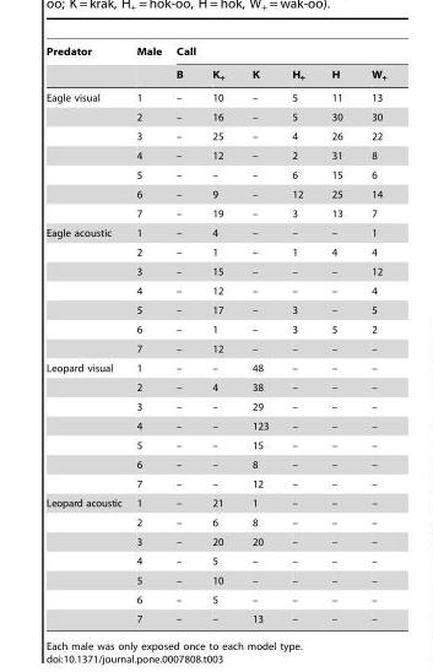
<table><thead><tr><td rowspan="2">Predator</td><td rowspan="2">Male</td><td colspan="6">Call</td></tr><tr><td>B</td><td>K<sub>+</sub></td><td>K</td><td>H<sub>+</sub></td><td>H</td><td>W<sub>+</sub></td></tr></thead><tbody><tr><td rowspan="7">Eagle visual</td><td>1</td><td>–</td><td>10</td><td>–</td><td>5</td><td>11</td><td>13</td></tr><tr><td>2</td><td>–</td><td>16</td><td>–</td><td>5</td><td>30</td><td>30</td></tr><tr><td>3</td><td>–</td><td>25</td><td>–</td><td>4</td><td>26</td><td>22</td></tr><tr><td>4</td><td>–</td><td>12</td><td>–</td><td>2</td><td>31</td><td>8</td></tr><tr><td>5</td><td>–</td><td>–</td><td>–</td><td>6</td><td>15</td><td>6</td></tr><tr><td>6</td><td>–</td><td>9</td><td>–</td><td>12</td><td>25</td><td>14</td></tr><tr><td>7</td><td>–</td><td>19</td><td>–</td><td>3</td><td>13</td><td>7</td></tr><tr><td rowspan="7">Eagle acoustic</td><td>1</td><td>–</td><td>4</td><td>–</td><td>–</td><td>–</td><td>1</td></tr><tr><td>2</td><td>–</td><td>1</td><td>–</td><td>1</td><td>4</td><td>4</td></tr><tr><td>3</td><td>–</td><td>15</td><td>–</td><td>–</td><td>–</td><td>12</td></tr><tr><td>4</td><td>–</td><td>12</td><td>–</td><td>–</td><td>–</td><td>4</td></tr><tr><td>5</td><td>–</td><td>17</td><td>–</td><td>3</td><td>–</td><td>5</td></tr><tr><td>6</td><td>–</td><td>1</td><td>–</td><td>3</td><td>5</td><td>2</td></tr><tr><td>7</td><td>–</td><td>12</td><td>–</td><td>–</td><td>–</td><td>–</td></tr><tr><td rowspan="7">Leopard visual</td><td>1</td><td>–</td><td>–</td><td>48</td><td>–</td><td>–</td><td>–</td></tr><tr><td>2</td><td>–</td><td>4</td><td>38</td><td>–</td><td>–</td><td>–</td></tr><tr><td>3</td><td>–</td><td>–</td><td>29</td><td>–</td><td>–</td><td>–</td></tr><tr><td>4</td><td>–</td><td>–</td><td>123</td><td>–</td><td>–</td><td>–</td></tr><tr><td>5</td><td>–</td><td>–</td><td>15</td><td>–</td><td>–</td><td>–</td></tr><tr><td>6</td><td>–</td><td>–</td><td>8</td><td>–</td><td>–</td><td>–</td></tr><tr><td>7</td><td>–</td><td>–</td><td>12</td><td>–</td><td>–</td><td>–</td></tr><tr><td rowspan="7">Leopard acoustic</td><td>1</td><td>–</td><td>21</td><td>1</td><td>–</td><td>–</td><td>–</td></tr><tr><td>2</td><td>–</td><td>6</td><td>8</td><td>–</td><td>–</td><td>–</td></tr><tr><td>3</td><td>–</td><td>20</td><td>20</td><td>–</td><td>–</td><td>–</td></tr><tr><td>4</td><td>–</td><td>5</td><td>–</td><td>–</td><td>–</td><td>–</td></tr><tr><td>5</td><td>–</td><td>10</td><td>–</td><td>–</td><td>–</td><td>–</td></tr><tr><td>6</td><td>–</td><td>5</td><td>–</td><td>–</td><td>–</td><td>–</td></tr><tr><td>7</td><td>–</td><td>–</td><td>13</td><td>–</td><td>–</td><td>–</td></tr></tbody></table>